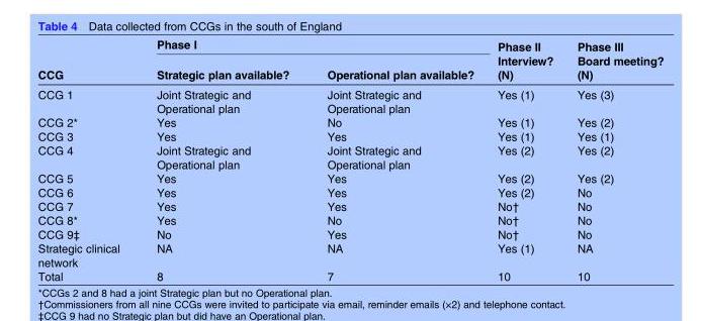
<table><thead><tr><td rowspan="2">CCG</td><td colspan="2">Phase I</td><td rowspan="2">Phase II Interview? (N)</td><td rowspan="2">Phase III Board meeting? (N)</td></tr><tr><td>Strategic plan available?</td><td>Operational plan available?</td></tr></thead><tbody><tr><td>CCG 1</td><td>Joint Strategic and Operational plan</td><td>Joint Strategic and Operational plan</td><td>Yes (1)</td><td>Yes (3)</td></tr><tr><td>CCG 2*</td><td>Yes</td><td>No</td><td>Yes (1)</td><td>Yes (2)</td></tr><tr><td>CCG 3</td><td>Yes</td><td>Yes</td><td>Yes (1)</td><td>Yes (1)</td></tr><tr><td>CCG 4</td><td>Joint Strategic and Operational plan</td><td>Joint Strategic and Operational plan</td><td>Yes (2)</td><td>Yes (2)</td></tr><tr><td>CCG 5</td><td>Yes</td><td>Yes</td><td>Yes (2)</td><td>Yes (2)</td></tr><tr><td>CCG 6</td><td>Yes</td><td>Yes</td><td>Yes (2)</td><td>No</td></tr><tr><td>CCG 7</td><td>Yes</td><td>Yes</td><td>No†</td><td>No</td></tr><tr><td>CCG 8*</td><td>Yes</td><td>No</td><td>No†</td><td>No</td></tr><tr><td>CCG 9‡</td><td>No</td><td>Yes</td><td>No†</td><td>No</td></tr><tr><td>Strategic clinical network</td><td>NA</td><td>NA</td><td>Yes (1)</td><td>NA</td></tr><tr><td>Total</td><td>8</td><td>7</td><td>10</td><td>10</td></tr></tbody></table>